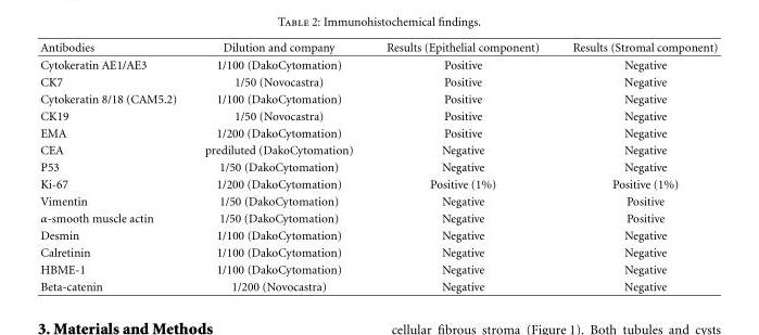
<table><thead><tr><td>Antibodies</td><td>Dilution and company</td><td>Results (Epithelial component)</td><td>Results (Stromal component)</td></tr></thead><tbody><tr><td>Cytokeratin AE1/AE3</td><td>1/100 (DakoCytomation)</td><td>Positive</td><td>Negative</td></tr><tr><td>CK7</td><td>1/50 (Novocastra)</td><td>Positive</td><td>Negative</td></tr><tr><td>Cytokeratin 8/18 (CAM5.2)</td><td>1/100 (DakoCytomation)</td><td>Positive</td><td>Negative</td></tr><tr><td>CK19</td><td>1/50 (Novocastra)</td><td>Positive</td><td>Negative</td></tr><tr><td>EMA</td><td>1/200 (DakoCytomation)</td><td>Positive</td><td>Negative</td></tr><tr><td>CEA</td><td>prediluted (DakoCytomation)</td><td>Negative</td><td>Negative</td></tr><tr><td>P53</td><td>1/50 (DakoCytomation)</td><td>Negative</td><td>Negative</td></tr><tr><td>Ki-67</td><td>1/200 (DakoCytomation)</td><td>Positive (1%)</td><td>Positive (1%)</td></tr><tr><td>Vimentin</td><td>1/50 (DakoCytomation)</td><td>Negative</td><td>Positive</td></tr><tr><td>α-smooth muscle actin</td><td>1/50 (DakoCytomation)</td><td>Negative</td><td>Positive</td></tr><tr><td>Desmin</td><td>1/100 (DakoCytomation)</td><td>Negative</td><td>Negative</td></tr><tr><td>Calretinin</td><td>1/100 (DakoCytomation)</td><td>Negative</td><td>Negative</td></tr><tr><td>HBME-1</td><td>1/100 (DakoCytomation)</td><td>Negative</td><td>Negative</td></tr><tr><td>Beta-catenin</td><td>1/200 (Novocastra)</td><td>Negative</td><td>Negative</td></tr></tbody></table>